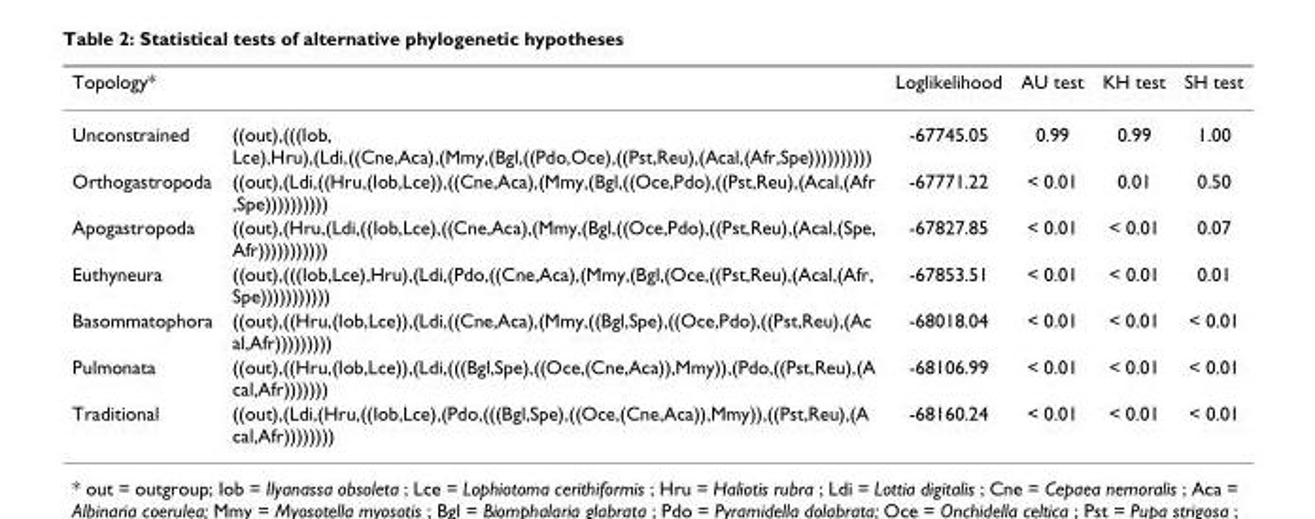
<table><thead><tr><td>Topology*</td><td></td><td>Loglikelihood</td><td>AU test</td><td>KH test</td><td>SH test</td></tr></thead><tbody><tr><td>Unconstrained</td><td>((out),(((Iob, Lce),Hru),(Ldi,((Cne,Aca),(Mmy,(Bgl,((Pdo,Oce),((Pst,Reu),(Acal,(Afr,Spe))))))))))</td><td>-67745.05</td><td>0.99</td><td>0.99</td><td>1.00</td></tr><tr><td>Orthogastropoda</td><td>((out),(Ldi,((Hru,(Iob,Lce)),((Cne,Aca),(Mmy,(Bgl,((Oce,Pdo),((Pst,Reu),(Acal,(Afr ,Spe))))))))))</td><td>-67771.22</td><td>&lt; 0.01</td><td>0.01</td><td>0.50</td></tr><tr><td>Apogastropoda</td><td>((out),(Hru,(Ldi,((Iob,Lce),((Cne,Aca),(Mmy,(Bgl,((Oce,Pdo),((Pst,Reu),(Acal,(Spe, Afr)))))))))))</td><td>-67827.85</td><td>&lt; 0.01</td><td>&lt; 0.01</td><td>0.07</td></tr><tr><td>Euthyneura</td><td>((out),(((Iob,Lce),Hru),(Ldi,(Pdo,((Cne,Aca),(Mmy,(Bgl,(Oce,((Pst,Reu),(Acal,(Afr, Spe)))))))))))</td><td>-67853.51</td><td>&lt; 0.01</td><td>&lt; 0.01</td><td>0.01</td></tr><tr><td>Basommatophora</td><td>((out),((Hru,(Iob,Lce)),(Ldi,((Cne,Aca),(Mmy,((Bgl,Spe),((Oce,Pdo),((Pst,Reu),(Ac al,Afr)))))))))</td><td>-68018.04</td><td>&lt; 0.01</td><td>&lt; 0.01</td><td>&lt; 0.01</td></tr><tr><td>Pulmonata</td><td>((out),((Hru,(Iob,Lce)),(Ldi,(((Bgl,Spe),((Oce,(Cne,Aca)),Mmy)),(Pdo,((Pst,Reu),(A cal,Afr)))))))</td><td>-68106.99</td><td>&lt; 0.01</td><td>&lt; 0.01</td><td>&lt; 0.01</td></tr><tr><td>Traditional</td><td>((out),(Ldi,(Hru,((Iob,Lce),(Pdo,(((Bgl,Spe),((Oce,(Cne,Aca)),Mmy)),((Pst,Reu),(A cal,Afr))))))))</td><td>-68160.24</td><td>&lt; 0.01</td><td>&lt; 0.01</td><td>&lt; 0.01</td></tr></tbody></table>